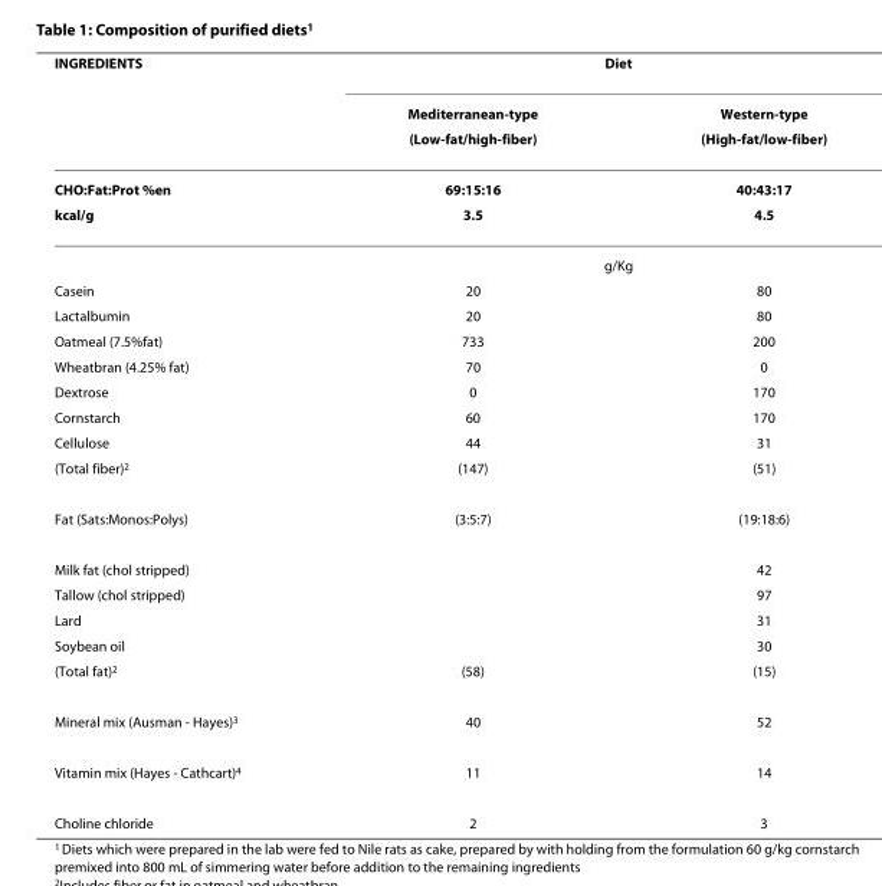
<table><thead><tr><td rowspan="3">INGREDIENTS</td><td colspan="2">Diet</td></tr><tr><td rowspan="2">Mediterranean-type (Low-fat/high-fiber)</td><td rowspan="2">Western-type (High-fat/low-fiber)</td></tr><tr></tr></thead><tbody><tr><td>CHO:Fat:Prot %en</td><td>69:15:16</td><td>40:43:17</td></tr><tr><td rowspan="2">kcal/g</td><td>3.5</td><td>4.5</td></tr><tr><td colspan="2">g/Kg</td></tr><tr><td>Casein</td><td>20</td><td>80</td></tr><tr><td>Lactalbumin</td><td>20</td><td>80</td></tr><tr><td>Oatmeal (7.5%fat)</td><td>733</td><td>200</td></tr><tr><td>Wheatbran (4.25% fat)</td><td>70</td><td>0</td></tr><tr><td>Dextrose</td><td>0</td><td>170</td></tr><tr><td>Cornstarch</td><td>60</td><td>170</td></tr><tr><td>Cellulose</td><td>44</td><td>31</td></tr><tr><td>(Total fiber)<sup>2</sup></td><td>(147)</td><td>(51)</td></tr><tr><td>Fat (Sats:Monos:Polys)</td><td>(3:5:7)</td><td>(19:18:6)</td></tr><tr><td>Milk fat (chol stripped)</td><td></td><td>42</td></tr><tr><td>Tallow (chol stripped)</td><td></td><td>97</td></tr><tr><td>Lard</td><td></td><td>31</td></tr><tr><td>Soybean oil</td><td></td><td>30</td></tr><tr><td>(Total fat)<sup>2</sup></td><td>(58)</td><td>(15)</td></tr><tr><td>Mineral mix (Ausman - Hayes)<sup>3</sup></td><td>40</td><td>52</td></tr><tr><td>Vitamin mix (Hayes - Cathcart)<sup>4</sup></td><td>11</td><td>14</td></tr><tr><td>Choline chloride</td><td>2</td><td>3</td></tr></tbody></table>